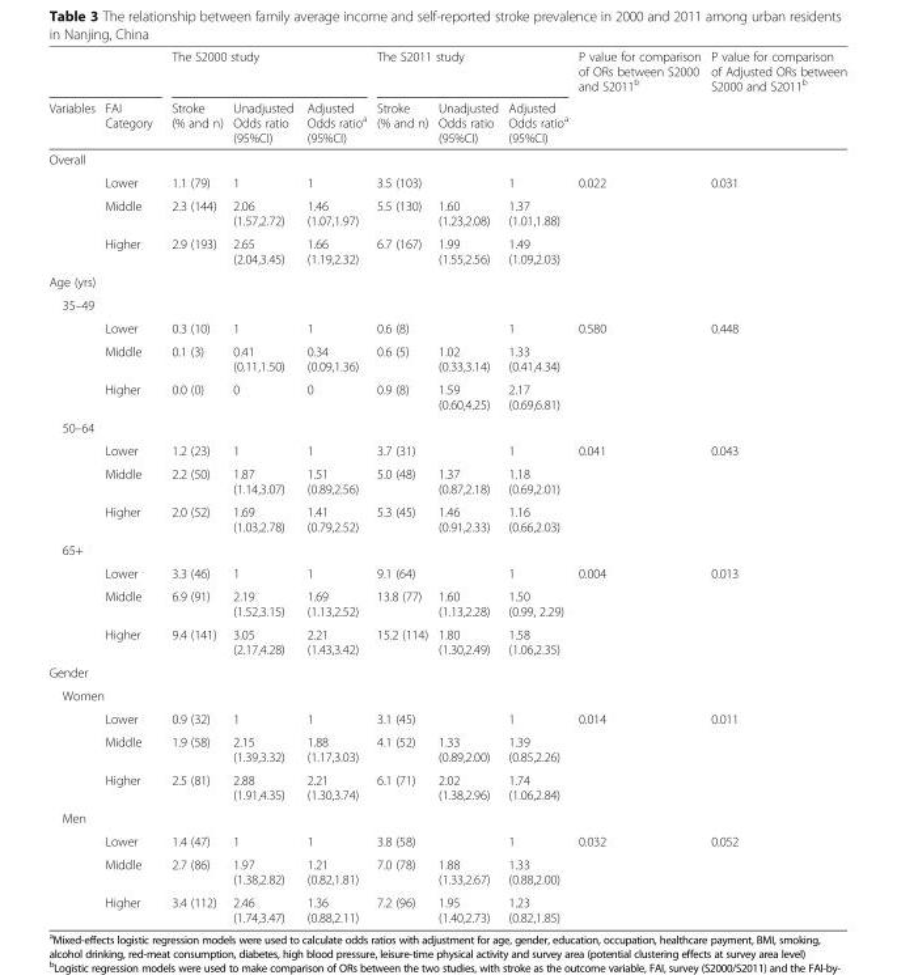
<table><thead><tr><td rowspan="2">Variables</td><td rowspan="2">FAI Category</td><td colspan="3">The S2000 study</td><td colspan="3">The S2011 study</td><td rowspan="2">P value for comparison of ORs between S2000 and S2011<sup>b</sup></td><td rowspan="2">P value for comparison of Adjusted ORs between S2000 and S2011<sup>b</sup></td></tr><tr><td>Stroke (% and n)</td><td>Unadjusted Odds ratio (95%CI)</td><td>Adjusted Odds ratio<sup>a</sup> (95%CI)</td><td>Stroke (% and n)</td><td>Unadjusted Odds ratio (95%CI)</td><td>Adjusted Odds ratio<sup>a</sup> (95%CI)</td></tr></thead><tbody><tr><td colspan="10">Overall</td></tr><tr><td></td><td>Lower</td><td>1.1 (79)</td><td>1</td><td>1</td><td>3.5 (103)</td><td></td><td>1</td><td rowspan="3">0.022</td><td rowspan="3">0.031</td></tr><tr><td></td><td>Middle</td><td>2.3 (144)</td><td>2.06 (1.57,2.72)</td><td>1.46 (1.07,1.97)</td><td>5.5 (130)</td><td>1.60 (1.23,2.08)</td><td>1.37 (1.01,1.88)</td></tr><tr><td></td><td>Higher</td><td>2.9 (193)</td><td>2.65 (2.04,3.45)</td><td>1.66 (1.19,2.32)</td><td>6.7 (167)</td><td>1.99 (1.55,2.56)</td><td>1.49 (1.09,2.03)</td></tr><tr><td colspan="10">Age (yrs)</td></tr><tr><td colspan="10">35–49</td></tr><tr><td></td><td>Lower</td><td>0.3 (10)</td><td>1</td><td>1</td><td>0.6 (8)</td><td></td><td>1</td><td rowspan="3">0.580</td><td rowspan="3">0.448</td></tr><tr><td></td><td>Middle</td><td>0.1 (3)</td><td>0.41 (0.11,1.50)</td><td>0.34 (0.09,1.36)</td><td>0.6 (5)</td><td>1.02 (0.33,3.14)</td><td>1.33 (0.41,4.34)</td></tr><tr><td></td><td>Higher</td><td>0.0 (0)</td><td>0</td><td>0</td><td>0.9 (8)</td><td>1.59 (0.60,4.25)</td><td>2.17 (0.69,6.81)</td></tr><tr><td colspan="10">50–64</td></tr><tr><td></td><td>Lower</td><td>1.2 (23)</td><td>1</td><td>1</td><td>3.7 (31)</td><td></td><td>1</td><td rowspan="3">0.041</td><td rowspan="3">0.043</td></tr><tr><td rowspan="2"></td><td>Middle</td><td>2.2 (50)</td><td>1.87 (1.14,3.07)</td><td>1.51 (0.89,2.56)</td><td>5.0 (48)</td><td>1.37 (0.87,2.18)</td><td>1.18 (0.69,2.01)</td></tr><tr><td>Higher</td><td>2.0 (52)</td><td>1.69 (1.03,2.78)</td><td>1.41 (0.79,2.52)</td><td>5.3 (45)</td><td>1.46 (0.91,2.33)</td><td>1.16 (0.66,2.03)</td></tr><tr><td colspan="10">65+</td></tr><tr><td></td><td>Lower</td><td>3.3 (46)</td><td>1</td><td>1</td><td>9.1 (64)</td><td></td><td>1</td><td rowspan="3">0.004</td><td rowspan="3">0.013</td></tr><tr><td></td><td>Middle</td><td>6.9 (91)</td><td>2.19 (1.52,3.15)</td><td>1.69 (1.13,2.52)</td><td>13.8 (77)</td><td>1.60 (1.13,2.28)</td><td>1.50 (0.99, 2.29)</td></tr><tr><td></td><td>Higher</td><td>9.4 (141)</td><td>3.05 (2.17,4.28)</td><td>2.21 (1.43,3.42)</td><td>15.2 (114)</td><td>1.80 (1.30,2.49)</td><td>1.58 (1.06,2.35)</td></tr><tr><td colspan="10">Gender</td></tr><tr><td colspan="10">Women</td></tr><tr><td></td><td>Lower</td><td>0.9 (32)</td><td>1</td><td>1</td><td>3.1 (45)</td><td></td><td>1</td><td rowspan="3">0.014</td><td rowspan="3">0.011</td></tr><tr><td></td><td>Middle</td><td>1.9 (58)</td><td>2.15 (1.39,3.32)</td><td>1.88 (1.17,3.03)</td><td>4.1 (52)</td><td>1.33 (0.89,2.00)</td><td>1.39 (0.85,2.26)</td></tr><tr><td></td><td>Higher</td><td>2.5 (81)</td><td>2.88 (1.91,4.35)</td><td>2.21 (1.30,3.74)</td><td>6.1 (71)</td><td>2.02 (1.38,2.96)</td><td>1.74 (1.06,2.84)</td></tr><tr><td colspan="10">Men</td></tr><tr><td></td><td>Lower</td><td>1.4 (47)</td><td>1</td><td>1</td><td>3.8 (58)</td><td></td><td>1</td><td rowspan="3">0.032</td><td rowspan="3">0.052</td></tr><tr><td></td><td>Middle</td><td>2.7 (86)</td><td>1.97 (1.38,2.82)</td><td>1.21 (0.82,1.81)</td><td>7.0 (78)</td><td>1.88 (1.33,2.67)</td><td>1.33 (0.88,2.00)</td></tr><tr><td></td><td>Higher</td><td>3.4 (112)</td><td>2.46 (1.74,3.47)</td><td>1.36 (0.88,2.11)</td><td>7.2 (96)</td><td>1.95 (1.40,2.73)</td><td>1.23 (0.82,1.85)</td></tr></tbody></table>